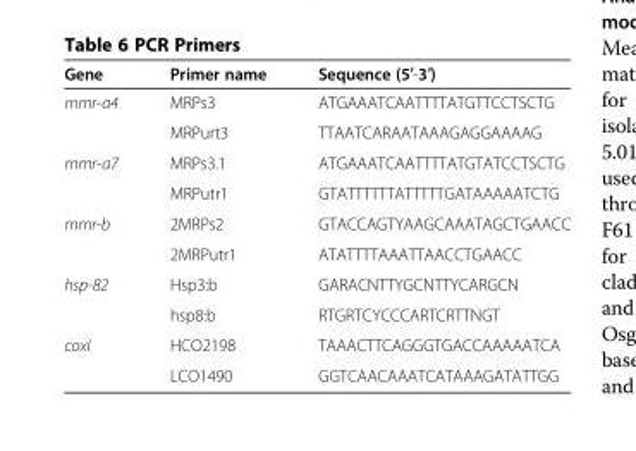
<table><thead><tr><td>Gene</td><td>Primer name</td><td>Sequence (5′-3′)</td></tr></thead><tbody><tr><td rowspan="2">mmr-a4</td><td>MRPs3</td><td>ATGAAATCAATTTTATGTTCCTSCTG</td></tr><tr><td>MRPurt3</td><td>TTAATCARAATAAAGAGGAAAAG</td></tr><tr><td rowspan="2">mmr-a7</td><td>MRPs3.1</td><td>ATGAAATCAATTTTATGTATCCTSCTG</td></tr><tr><td>MRPutr1</td><td>GTATTTTTTATTTTTGATAAAAATCTG</td></tr><tr><td rowspan="2">mmr-b</td><td>2MRPs2</td><td>GTACCAGTYAAGCAAATAGCTGAACC</td></tr><tr><td>2MRPutr1</td><td>ATATTTTAAATTAACCTGAACC</td></tr><tr><td rowspan="2">hsp-82</td><td>Hsp3:b</td><td>GARACNTTYGCNTTYCARGCN</td></tr><tr><td>hsp8:b</td><td>RTGRTCYCCCARTCRTTNGT</td></tr><tr><td rowspan="2">coxI</td><td>HCO2198</td><td>TAAACTTCAGGGTGACCAAAAATCA</td></tr><tr><td>LCO1490</td><td>GGTCAACAAATCATAAAGATATTGG</td></tr></tbody></table>